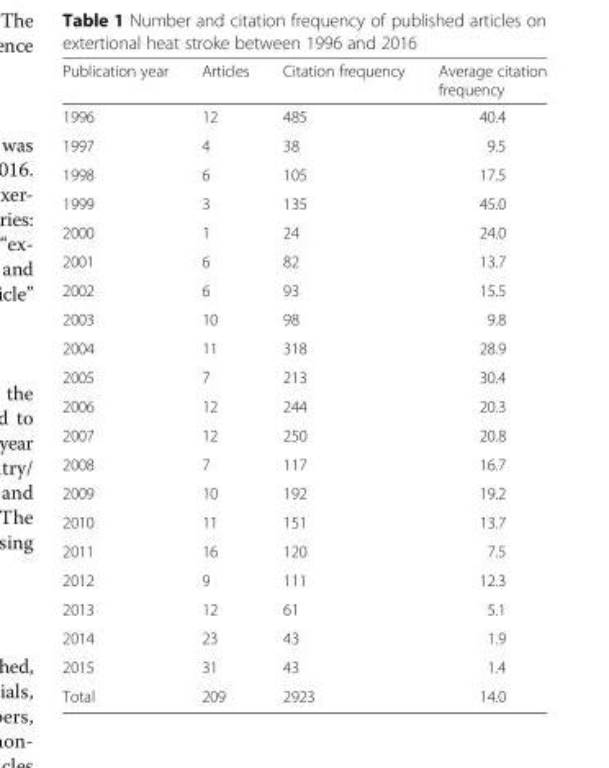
<table><thead><tr><td>Publication year</td><td>Articles</td><td>Citation frequency</td><td>Average citation frequency</td></tr></thead><tbody><tr><td>1996</td><td>12</td><td>485</td><td>40.4</td></tr><tr><td>1997</td><td>4</td><td>38</td><td>9.5</td></tr><tr><td>1998</td><td>6</td><td>105</td><td>17.5</td></tr><tr><td>1999</td><td>3</td><td>135</td><td>45.0</td></tr><tr><td>2000</td><td>1</td><td>24</td><td>24.0</td></tr><tr><td>2001</td><td>6</td><td>82</td><td>13.7</td></tr><tr><td>2002</td><td>6</td><td>93</td><td>15.5</td></tr><tr><td>2003</td><td>10</td><td>98</td><td>9.8</td></tr><tr><td>2004</td><td>11</td><td>318</td><td>28.9</td></tr><tr><td>2005</td><td>7</td><td>213</td><td>30.4</td></tr><tr><td>2006</td><td>12</td><td>244</td><td>20.3</td></tr><tr><td>2007</td><td>12</td><td>250</td><td>20.8</td></tr><tr><td>2008</td><td>7</td><td>117</td><td>16.7</td></tr><tr><td>2009</td><td>10</td><td>192</td><td>19.2</td></tr><tr><td>2010</td><td>11</td><td>151</td><td>13.7</td></tr><tr><td>2011</td><td>16</td><td>120</td><td>7.5</td></tr><tr><td>2012</td><td>9</td><td>111</td><td>12.3</td></tr><tr><td>2013</td><td>12</td><td>61</td><td>5.1</td></tr><tr><td>2014</td><td>23</td><td>43</td><td>1.9</td></tr><tr><td>2015</td><td>31</td><td>43</td><td>1.4</td></tr><tr><td>Total</td><td>209</td><td>2923</td><td>14.0</td></tr></tbody></table>